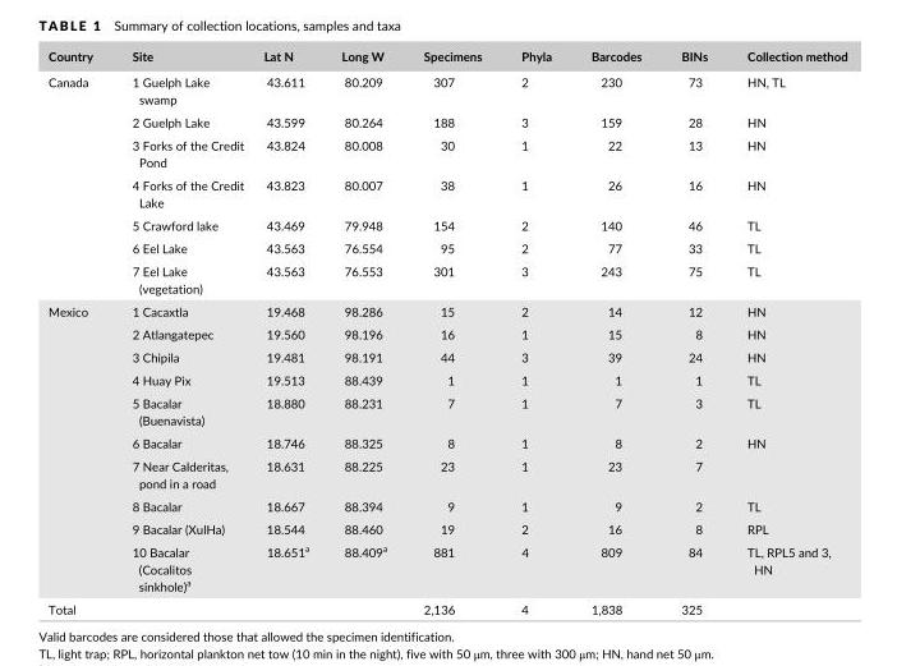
<table><thead><tr><td>Country</td><td>Site</td><td>Lat N</td><td>Long W</td><td>Specimens</td><td>Phyla</td><td>Barcodes</td><td>BINs</td><td>Collection method</td></tr></thead><tbody><tr><td rowspan="7">Canada</td><td>1 Guelph Lake swamp</td><td>43.611</td><td>80.209</td><td>307</td><td>2</td><td>230</td><td>73</td><td>HN, TL</td></tr><tr><td>2 Guelph Lake</td><td>43.599</td><td>80.264</td><td>188</td><td>3</td><td>159</td><td>28</td><td>HN</td></tr><tr><td>3 Forks of the Credit Pond</td><td>43.824</td><td>80.008</td><td>30</td><td>1</td><td>22</td><td>13</td><td>HN</td></tr><tr><td>4 Forks of the Credit Lake</td><td>43.823</td><td>80.007</td><td>38</td><td>1</td><td>26</td><td>16</td><td>HN</td></tr><tr><td>5 Crawford lake</td><td>43.469</td><td>79.948</td><td>154</td><td>2</td><td>140</td><td>46</td><td>TL</td></tr><tr><td>6 Eel Lake</td><td>43.563</td><td>76.554</td><td>95</td><td>2</td><td>77</td><td>33</td><td>TL</td></tr><tr><td>7 Eel Lake (vegetation)</td><td>43.563</td><td>76.553</td><td>301</td><td>3</td><td>243</td><td>75</td><td>TL</td></tr><tr><td rowspan="10">Mexico</td><td>1 Cacaxtla</td><td>19.468</td><td>98.286</td><td>15</td><td>2</td><td>14</td><td>12</td><td>HN</td></tr><tr><td>2 Atlangatepec</td><td>19.560</td><td>98.196</td><td>16</td><td>1</td><td>15</td><td>8</td><td>HN</td></tr><tr><td>3 Chipila</td><td>19.481</td><td>98.191</td><td>44</td><td>3</td><td>39</td><td>24</td><td>HN</td></tr><tr><td>4 Huay Pix</td><td>19.513</td><td>88.439</td><td>1</td><td>1</td><td>1</td><td>1</td><td>TL</td></tr><tr><td>5 Bacalar (Buenavista)</td><td>18.880</td><td>88.231</td><td>7</td><td>1</td><td>7</td><td>3</td><td>TL</td></tr><tr><td>6 Bacalar</td><td>18.746</td><td>88.325</td><td>8</td><td>1</td><td>8</td><td>2</td><td>HN</td></tr><tr><td>7 Near Calderitas, pond in a road</td><td>18.631</td><td>88.225</td><td>23</td><td>1</td><td>23</td><td>7</td><td></td></tr><tr><td>8 Bacalar</td><td>18.667</td><td>88.394</td><td>9</td><td>1</td><td>9</td><td>2</td><td>TL</td></tr><tr><td>9 Bacalar (XulHa)</td><td>18.544</td><td>88.460</td><td>19</td><td>2</td><td>16</td><td>8</td><td>RPL</td></tr><tr><td>10 Bacalar (Cocalitos sinkhole)<sup>a</sup></td><td>18.651<sup>a</sup></td><td>88.409<sup>a</sup></td><td>881</td><td>4</td><td>809</td><td>84</td><td>TL, RPL5 and 3, HN</td></tr><tr><td>Total</td><td></td><td></td><td></td><td>2,136</td><td>4</td><td>1,838</td><td>325</td><td></td></tr></tbody></table>